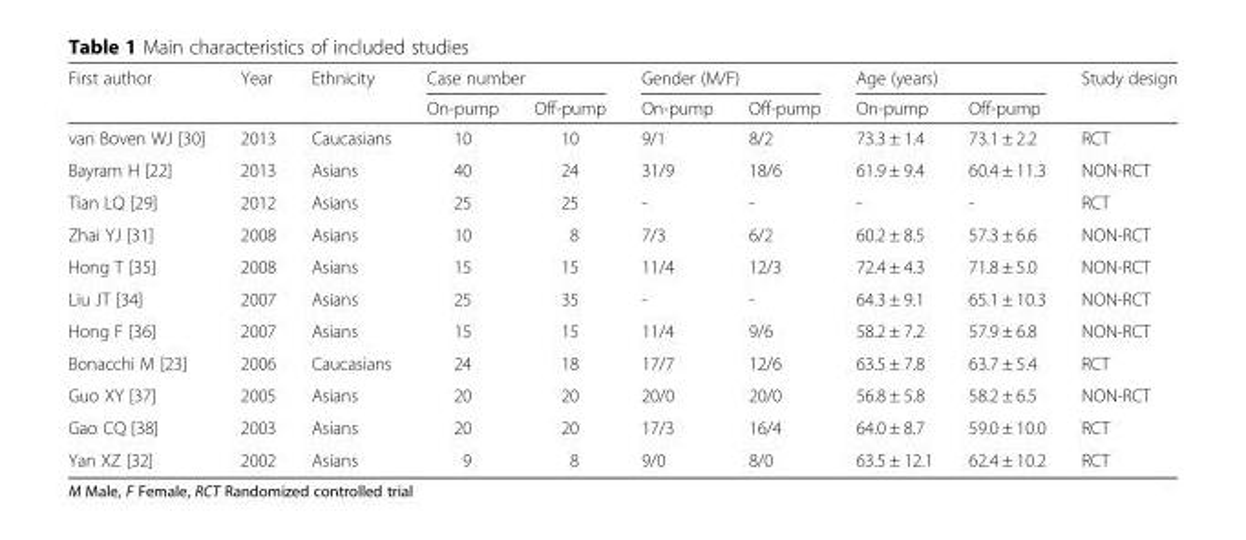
<table><thead><tr><td rowspan="2">First author</td><td rowspan="2">Year</td><td rowspan="2">Ethnicity</td><td colspan="2">Case number</td><td colspan="2">Gender (M/F)</td><td colspan="2">Age (years)</td><td rowspan="2">Study design</td></tr><tr><td>On-pump</td><td>Off-pump</td><td>On-pump</td><td>Off-pump</td><td>On-pump</td><td>Off-pump</td></tr></thead><tbody><tr><td>van Boven WJ [30]</td><td>2013</td><td>Caucasians</td><td>10</td><td>10</td><td>9/1</td><td>8/2</td><td>73.3 ± 1.4</td><td>73.1 ± 2.2</td><td>RCT</td></tr><tr><td>Bayram H [22]</td><td>2013</td><td>Asians</td><td>40</td><td>24</td><td>31/9</td><td>18/6</td><td>61.9 ± 9.4</td><td>60.4 ± 11.3</td><td>NON-RCT</td></tr><tr><td>Tian LQ [29]</td><td>2012</td><td>Asians</td><td>25</td><td>25</td><td>-</td><td>-</td><td>-</td><td>-</td><td>RCT</td></tr><tr><td>Zhai YJ [31]</td><td>2008</td><td>Asians</td><td>10</td><td>8</td><td>7/3</td><td>6/2</td><td>60.2 ± 8.5</td><td>57.3 ± 6.6</td><td>NON-RCT</td></tr><tr><td>Hong T [35]</td><td>2008</td><td>Asians</td><td>15</td><td>15</td><td>11/4</td><td>12/3</td><td>72.4 ± 4.3</td><td>71.8 ± 5.0</td><td>NON-RCT</td></tr><tr><td>Liu JT [34]</td><td>2007</td><td>Asians</td><td>25</td><td>35</td><td>-</td><td>-</td><td>64.3 ± 9.1</td><td>65.1 ± 10.3</td><td>NON-RCT</td></tr><tr><td>Hong F [36]</td><td>2007</td><td>Asians</td><td>15</td><td>15</td><td>11/4</td><td>9/6</td><td>58.2 ± 7.2</td><td>57.9 ± 6.8</td><td>NON-RCT</td></tr><tr><td>Bonacchi M [23]</td><td>2006</td><td>Caucasians</td><td>24</td><td>18</td><td>17/7</td><td>12/6</td><td>63.5 ± 7.8</td><td>63.7 ± 5.4</td><td>RCT</td></tr><tr><td>Guo XY [37]</td><td>2005</td><td>Asians</td><td>20</td><td>20</td><td>20/0</td><td>20/0</td><td>56.8 ± 5.8</td><td>58.2 ± 6.5</td><td>NON-RCT</td></tr><tr><td>Gao CQ [38]</td><td>2003</td><td>Asians</td><td>20</td><td>20</td><td>17/3</td><td>16/4</td><td>64.0 ± 8.7</td><td>59.0 ± 10.0</td><td>RCT</td></tr><tr><td>Yan XZ [32]</td><td>2002</td><td>Asians</td><td>9</td><td>8</td><td>9/0</td><td>8/0</td><td>63.5 ± 12.1</td><td>62.4 ± 10.2</td><td>RCT</td></tr></tbody></table>